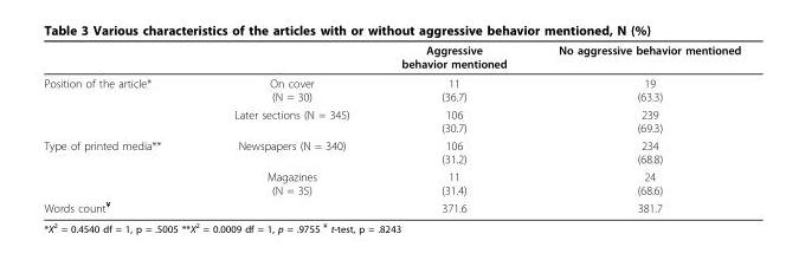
<table><thead><tr><td></td><td></td><td>Aggressive behavior mentioned</td><td>No aggressive behavior mentioned</td></tr></thead><tbody><tr><td rowspan="2">Position of the article*</td><td>On cover (N = 30)</td><td>11 (36.7)</td><td>19 (63.3)</td></tr><tr><td>Later sections (N = 345)</td><td>106 (30.7)</td><td>239 (69.3)</td></tr><tr><td rowspan="2">Type of printed media**</td><td>Newspapers (N = 340)</td><td>106 (31.2)</td><td>234 (68.8)</td></tr><tr><td>Magazines (N = 35)</td><td>11 (31.4)</td><td>24 (68.6)</td></tr><tr><td colspan="2">Words count<sup>¥</sup></td><td>371.6</td><td>381.7</td></tr></tbody></table>